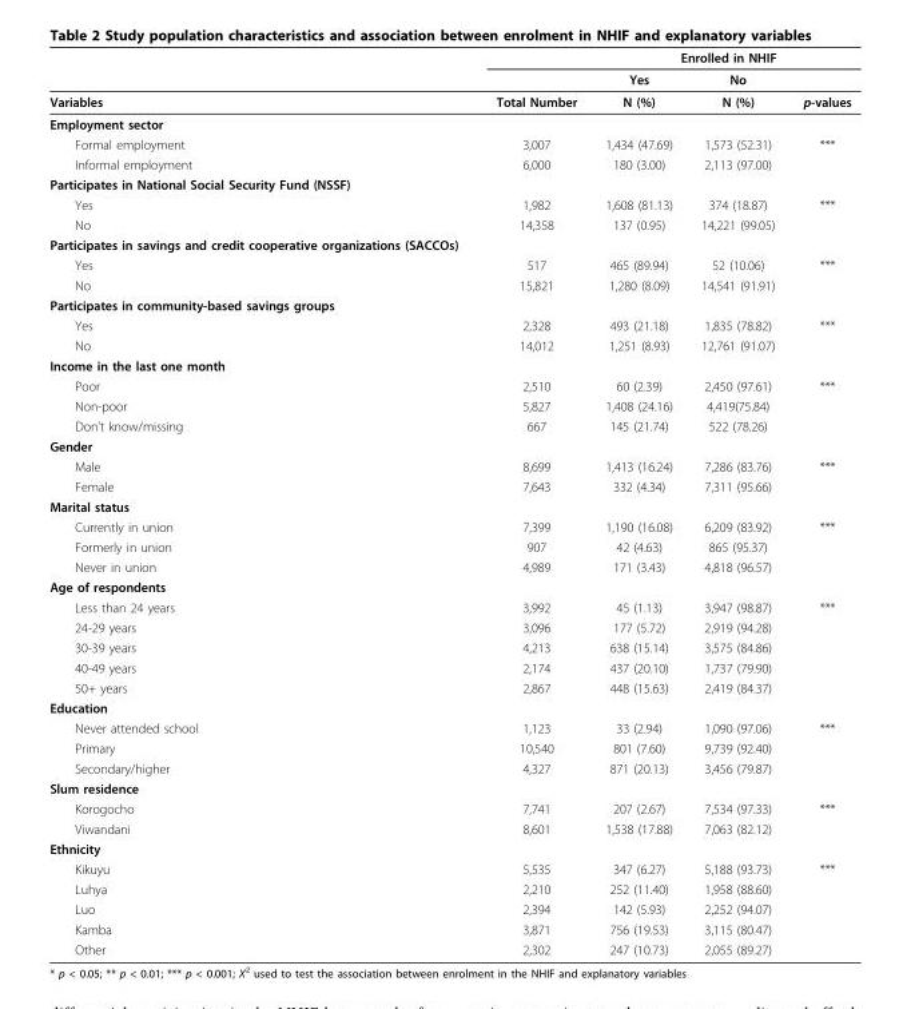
<table><thead><tr><td rowspan="2"></td><td rowspan="2"></td><td colspan="3">Enrolled in NHIF</td></tr><tr><td>Yes</td><td>No</td><td></td></tr></thead><tbody><tr><td>Variables</td><td>Total Number</td><td>N (%)</td><td>N (%)</td><td>p-values</td></tr><tr><td colspan="5">Employment sector</td></tr><tr><td>Formal employment</td><td>3,007</td><td>1,434 (47.69)</td><td>1,573 (52.31)</td><td>***</td></tr><tr><td>Informal employment</td><td>6,000</td><td>180 (3.00)</td><td>2,113 (97.00)</td><td></td></tr><tr><td colspan="5">Participates in National Social Security Fund (NSSF)</td></tr><tr><td>Yes</td><td>1,982</td><td>1,608 (81.13)</td><td>374 (18.87)</td><td>***</td></tr><tr><td>No</td><td>14,358</td><td>137 (0.95)</td><td>14,221 (99.05)</td><td></td></tr><tr><td colspan="5">Participates in savings and credit cooperative organizations (SACCOs)</td></tr><tr><td>Yes</td><td>517</td><td>465 (89.94)</td><td>52 (10.06)</td><td>***</td></tr><tr><td>No</td><td>15,821</td><td>1,280 (8.09)</td><td>14,541 (91.91)</td><td></td></tr><tr><td colspan="5">Participates in community-based savings groups</td></tr><tr><td>Yes</td><td>2,328</td><td>493 (21.18)</td><td>1,835 (78.82)</td><td>***</td></tr><tr><td>No</td><td>14,012</td><td>1,251 (8.93)</td><td>12,761 (91.07)</td><td></td></tr><tr><td colspan="5">Income in the last one month</td></tr><tr><td>Poor</td><td>2,510</td><td>60 (2.39)</td><td>2,450 (97.61)</td><td>***</td></tr><tr><td>Non-poor</td><td>5,827</td><td>1,408 (24.16)</td><td>4,419(75.84)</td><td></td></tr><tr><td>Don’t know/missing</td><td>667</td><td>145 (21.74)</td><td>522 (78.26)</td><td></td></tr><tr><td colspan="5">Gender</td></tr><tr><td>Male</td><td>8,699</td><td>1,413 (16.24)</td><td>7,286 (83.76)</td><td>***</td></tr><tr><td>Female</td><td>7,643</td><td>332 (4.34)</td><td>7,311 (95.66)</td><td></td></tr><tr><td colspan="5">Marital status</td></tr><tr><td>Currently in union</td><td>7,399</td><td>1,190 (16.08)</td><td>6,209 (83.92)</td><td>***</td></tr><tr><td>Formerly in union</td><td>907</td><td>42 (4.63)</td><td>865 (95.37)</td><td></td></tr><tr><td>Never in union</td><td>4,989</td><td>171 (3.43)</td><td>4,818 (96.57)</td><td></td></tr><tr><td colspan="5">Age of respondents</td></tr><tr><td>Less than 24 years</td><td>3,992</td><td>45 (1.13)</td><td>3,947 (98.87)</td><td>***</td></tr><tr><td>24-29 years</td><td>3,096</td><td>177 (5.72)</td><td>2,919 (94.28)</td><td></td></tr><tr><td>30-39 years</td><td>4,213</td><td>638 (15.14)</td><td>3,575 (84.86)</td><td></td></tr><tr><td>40-49 years</td><td>2,174</td><td>437 (20.10)</td><td>1,737 (79.90)</td><td></td></tr><tr><td>50+ years</td><td>2,867</td><td>448 (15.63)</td><td>2,419 (84.37)</td><td></td></tr><tr><td colspan="5">Education</td></tr><tr><td>Never attended school</td><td>1,123</td><td>33 (2.94)</td><td>1,090 (97.06)</td><td>***</td></tr><tr><td>Primary</td><td>10,540</td><td>801 (7.60)</td><td>9,739 (92.40)</td><td></td></tr><tr><td>Secondary/higher</td><td>4,327</td><td>871 (20.13)</td><td>3,456 (79.87)</td><td></td></tr><tr><td colspan="5">Slum residence</td></tr><tr><td>Korogocho</td><td>7,741</td><td>207 (2.67)</td><td>7,534 (97.33)</td><td>***</td></tr><tr><td>Viwandani</td><td>8,601</td><td>1,538 (17.88)</td><td>7,063 (82.12)</td><td></td></tr><tr><td colspan="5">Ethnicity</td></tr><tr><td>Kikuyu</td><td>5,535</td><td>347 (6.27)</td><td>5,188 (93.73)</td><td>***</td></tr><tr><td>Luhya</td><td>2,210</td><td>252 (11.40)</td><td>1,958 (88.60)</td><td></td></tr><tr><td>Luo</td><td>2,394</td><td>142 (5.93)</td><td>2,252 (94.07)</td><td></td></tr><tr><td>Kamba</td><td>3,871</td><td>756 (19.53)</td><td>3,115 (80.47)</td><td></td></tr><tr><td>Other</td><td>2,302</td><td>247 (10.73)</td><td>2,055 (89.27)</td><td></td></tr></tbody></table>